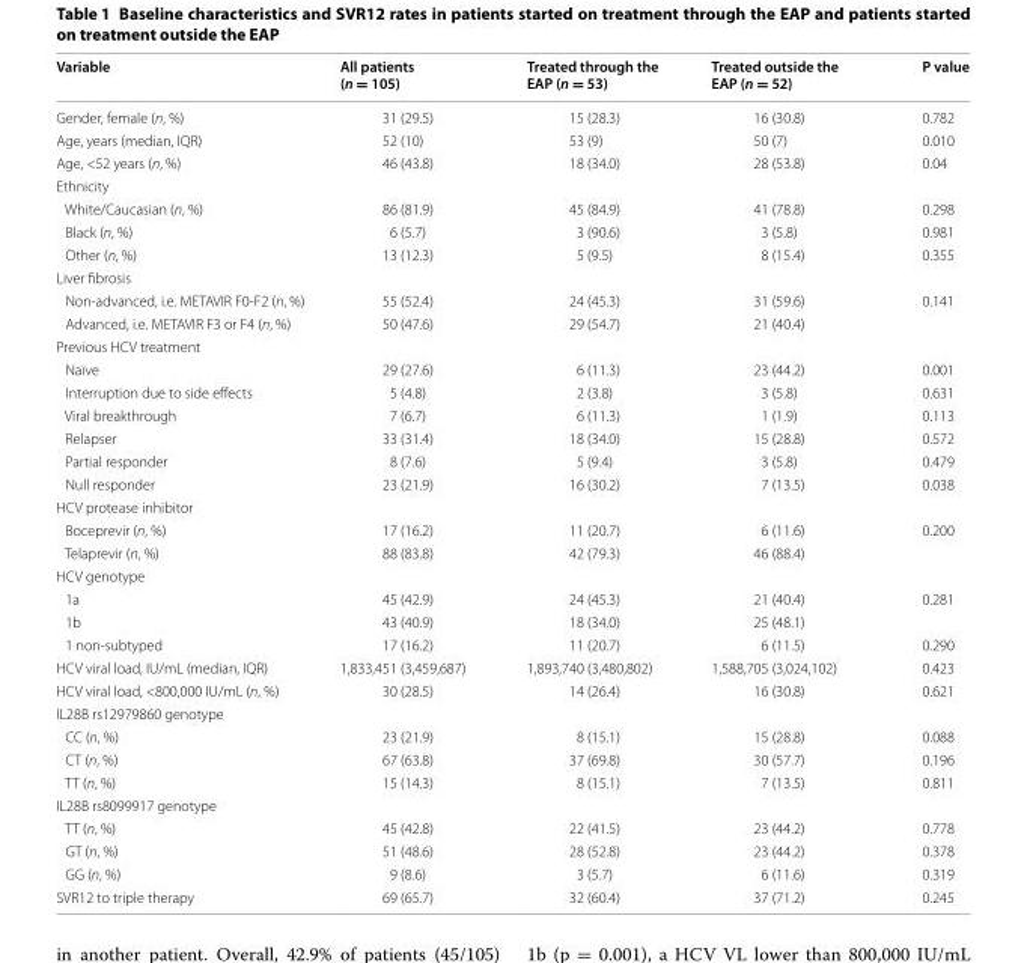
<table><thead><tr><td>Variable</td><td>All patients (n = 105)</td><td>Treated through the EAP (n = 53)</td><td>Treated outside the EAP (n = 52)</td><td>P value</td></tr></thead><tbody><tr><td>Gender, female (n, %)</td><td>31 (29.5)</td><td>15 (28.3)</td><td>16 (30.8)</td><td>0.782</td></tr><tr><td>Age, years (median, IQR)</td><td>52 (10)</td><td>53 (9)</td><td>50 (7)</td><td>0.010</td></tr><tr><td>Age, &lt;52 years (n, %)</td><td>46 (43.8)</td><td>18 (34.0)</td><td>28 (53.8)</td><td>0.04</td></tr><tr><td colspan="5">Ethnicity</td></tr><tr><td>White/Caucasian (n, %)</td><td>86 (81.9)</td><td>45 (84.9)</td><td>41 (78.8)</td><td>0.298</td></tr><tr><td>Black (n, %)</td><td>6 (5.7)</td><td>3 (90.6)</td><td>3 (5.8)</td><td>0.981</td></tr><tr><td>Other (n, %)</td><td>13 (12.3)</td><td>5 (9.5)</td><td>8 (15.4)</td><td>0.355</td></tr><tr><td colspan="5">Liver fibrosis</td></tr><tr><td>Non-advanced, i.e. METAVIR F0-F2 (n, %)</td><td>55 (52.4)</td><td>24 (45.3)</td><td>31 (59.6)</td><td rowspan="2">0.141</td></tr><tr><td>Advanced, i.e. METAVIR F3 or F4 (n, %)</td><td>50 (47.6)</td><td>29 (54.7)</td><td>21 (40.4)</td></tr><tr><td colspan="5">Previous HCV treatment</td></tr><tr><td>Naïve</td><td>29 (27.6)</td><td>6 (11.3)</td><td>23 (44.2)</td><td>0.001</td></tr><tr><td>Interruption due to side effects</td><td>5 (4.8)</td><td>2 (3.8)</td><td>3 (5.8)</td><td>0.631</td></tr><tr><td>Viral breakthrough</td><td>7 (6.7)</td><td>6 (11.3)</td><td>1 (1.9)</td><td>0.113</td></tr><tr><td>Relapser</td><td>33 (31.4)</td><td>18 (34.0)</td><td>15 (28.8)</td><td>0.572</td></tr><tr><td>Partial responder</td><td>8 (7.6)</td><td>5 (9.4)</td><td>3 (5.8)</td><td>0.479</td></tr><tr><td>Null responder</td><td>23 (21.9)</td><td>16 (30.2)</td><td>7 (13.5)</td><td>0.038</td></tr><tr><td colspan="5">HCV protease inhibitor</td></tr><tr><td>Boceprevir (n, %)</td><td>17 (16.2)</td><td>11 (20.7)</td><td>6 (11.6)</td><td rowspan="2">0.200</td></tr><tr><td>Telaprevir (n, %)</td><td>88 (83.8)</td><td>42 (79.3)</td><td>46 (88.4)</td></tr><tr><td colspan="5">HCV genotype</td></tr><tr><td>1a</td><td>45 (42.9)</td><td>24 (45.3)</td><td>21 (40.4)</td><td rowspan="2">0.281</td></tr><tr><td>1b</td><td>43 (40.9)</td><td>18 (34.0)</td><td>25 (48.1)</td></tr><tr><td>1 non-subtyped</td><td>17 (16.2)</td><td>11 (20.7)</td><td>6 (11.5)</td><td>0.290</td></tr><tr><td>HCV viral load, IU/mL (median, IQR)</td><td>1,833,451 (3,459,687)</td><td>1,893,740 (3,480,802)</td><td>1,588,705 (3,024,102)</td><td>0.423</td></tr><tr><td>HCV viral load, &lt;800,000 IU/mL (n, %)</td><td>30 (28.5)</td><td>14 (26.4)</td><td>16 (30.8)</td><td>0.621</td></tr><tr><td colspan="5">IL28B rs12979860 genotype</td></tr><tr><td>CC (n, %)</td><td>23 (21.9)</td><td>8 (15.1)</td><td>15 (28.8)</td><td>0.088</td></tr><tr><td>CT (n, %)</td><td>67 (63.8)</td><td>37 (69.8)</td><td>30 (57.7)</td><td>0.196</td></tr><tr><td>TT (n, %)</td><td>15 (14.3)</td><td>8 (15.1)</td><td>7 (13.5)</td><td>0.811</td></tr><tr><td colspan="5">IL28B rs8099917 genotype</td></tr><tr><td>TT (n, %)</td><td>45 (42.8)</td><td>22 (41.5)</td><td>23 (44.2)</td><td>0.778</td></tr><tr><td>GT (n, %)</td><td>51 (48.6)</td><td>28 (52.8)</td><td>23 (44.2)</td><td>0.378</td></tr><tr><td>GG (n, %)</td><td>9 (8.6)</td><td>3 (5.7)</td><td>6 (11.6)</td><td>0.319</td></tr><tr><td>SVR12 to triple therapy</td><td>69 (65.7)</td><td>32 (60.4)</td><td>37 (71.2)</td><td>0.245</td></tr></tbody></table>